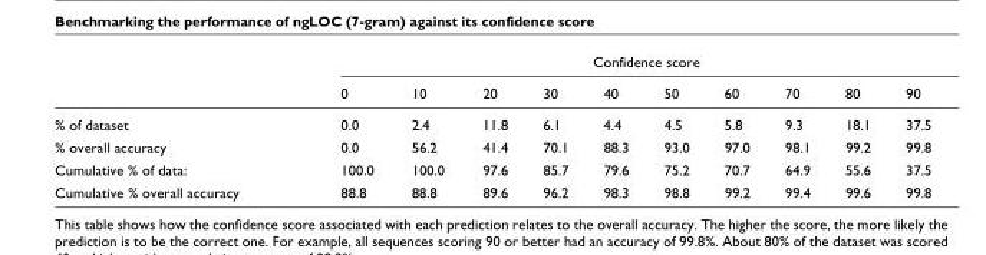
<table><thead><tr><td rowspan="2"></td><td colspan="10">Confidence score</td></tr><tr><td>0</td><td>10</td><td>20</td><td>30</td><td>40</td><td>50</td><td>60</td><td>70</td><td>80</td><td>90</td></tr></thead><tbody><tr><td>% of dataset</td><td>0.0</td><td>2.4</td><td>11.8</td><td>6.1</td><td>4.4</td><td>4.5</td><td>5.8</td><td>9.3</td><td>18.1</td><td>37.5</td></tr><tr><td>% overall accuracy</td><td>0.0</td><td>56.2</td><td>41.4</td><td>70.1</td><td>88.3</td><td>93.0</td><td>97.0</td><td>98.1</td><td>99.2</td><td>99.8</td></tr><tr><td>Cumulative % of data:</td><td>100.0</td><td>100.0</td><td>97.6</td><td>85.7</td><td>79.6</td><td>75.2</td><td>70.7</td><td>64.9</td><td>55.6</td><td>37.5</td></tr><tr><td>Cumulative % overall accuracy</td><td>88.8</td><td>88.8</td><td>89.6</td><td>96.2</td><td>98.3</td><td>98.8</td><td>99.2</td><td>99.4</td><td>99.6</td><td>99.8</td></tr></tbody></table>